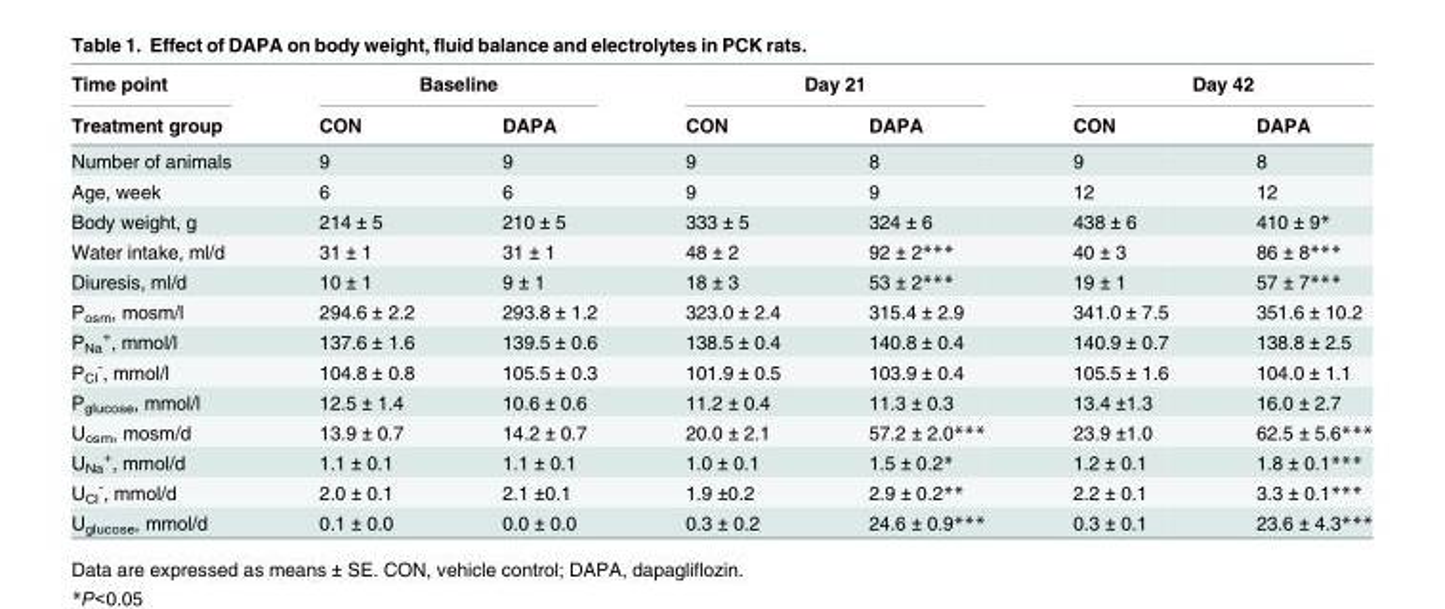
<table><thead><tr><td rowspan="2">Time point Treatment group</td><td colspan="2">Baseline</td><td colspan="2">Day 21</td><td colspan="2">Day 42</td></tr><tr><td>CON</td><td>DAPA</td><td>CON</td><td>DAPA</td><td>CON</td><td>DAPA</td></tr></thead><tbody><tr><td>Number of animals</td><td>9</td><td>9</td><td>9</td><td>8</td><td>9</td><td>8</td></tr><tr><td>Age, week</td><td>6</td><td>6</td><td>9</td><td>9</td><td>12</td><td>12</td></tr><tr><td>Body weight, g</td><td>214 ± 5</td><td>210 ± 5</td><td>333 ± 5</td><td>324 ± 6</td><td>438 ± 6</td><td>410 ± 9*</td></tr><tr><td>Water intake, ml/d</td><td>31 ± 1</td><td>31 ± 1</td><td>48 ± 2</td><td>92 ± 2***</td><td>40 ± 3</td><td>86 ± 8***</td></tr><tr><td>Diuresis, ml/d</td><td>10 ± 1</td><td>9 ± 1</td><td>18 ± 3</td><td>53 ± 2***</td><td>19 ± 1</td><td>57 ± 7***</td></tr><tr><td>P<sub>osm</sub>, mosm/l</td><td>294.6 ± 2.2</td><td>293.8 ± 1.2</td><td>323.0 ± 2.4</td><td>315.4 ± 2.9</td><td>341.0 ± 7.5</td><td>351.6 ± 10.2</td></tr><tr><td>P<sub>Na</sub> <sup>+</sup>, mmol/l</td><td>137.6 ± 1.6</td><td>139.5 ± 0.6</td><td>138.5 ± 0.4</td><td>140.8 ± 0.4</td><td>140.9 ± 0.7</td><td>138.8 ± 2.5</td></tr><tr><td>P<sub>Cl</sub> <sup>-</sup>, mmol/l</td><td>104.8 ± 0.8</td><td>105.5 ± 0.3</td><td>101.9 ± 0.5</td><td>103.9 ± 0.4</td><td>105.5 ± 1.6</td><td>104.0 ± 1.1</td></tr><tr><td>P<sub>glucose</sub>, mmol/l</td><td>12.5 ± 1.4</td><td>10.6 ± 0.6</td><td>11.2 ± 0.4</td><td>11.3 ± 0.3</td><td>13.4 ±1.3</td><td>16.0 ± 2.7</td></tr><tr><td>U<sub>osm</sub>, mosm/d</td><td>13.9 ± 0.7</td><td>14.2 ± 0.7</td><td>20.0 ± 2.1</td><td>57.2 ± 2.0***</td><td>23.9 ±1.0</td><td>62.5 ± 5.6***</td></tr><tr><td>U<sub>Na</sub> <sup>+</sup>, mmol/d</td><td>1.1 ± 0.1</td><td>1.1 ± 0.1</td><td>1.0 ± 0.1</td><td>1.5 ± 0.2*</td><td>1.2 ± 0.1</td><td>1.8 ± 0.1***</td></tr><tr><td>U<sub>Cl</sub> <sup>-</sup>, mmol/d</td><td>2.0 ± 0.1</td><td>2.1 ±0.1</td><td>1.9 ±0.2</td><td>2.9 ± 0.2**</td><td>2.2 ± 0.1</td><td>3.3 ± 0.1***</td></tr><tr><td>U<sub>glucose</sub>, mmol/d</td><td>0.1 ± 0.0</td><td>0.0 ± 0.0</td><td>0.3 ± 0.2</td><td>24.6 ± 0.9***</td><td>0.3 ± 0.1</td><td>23.6 ± 4.3***</td></tr></tbody></table>